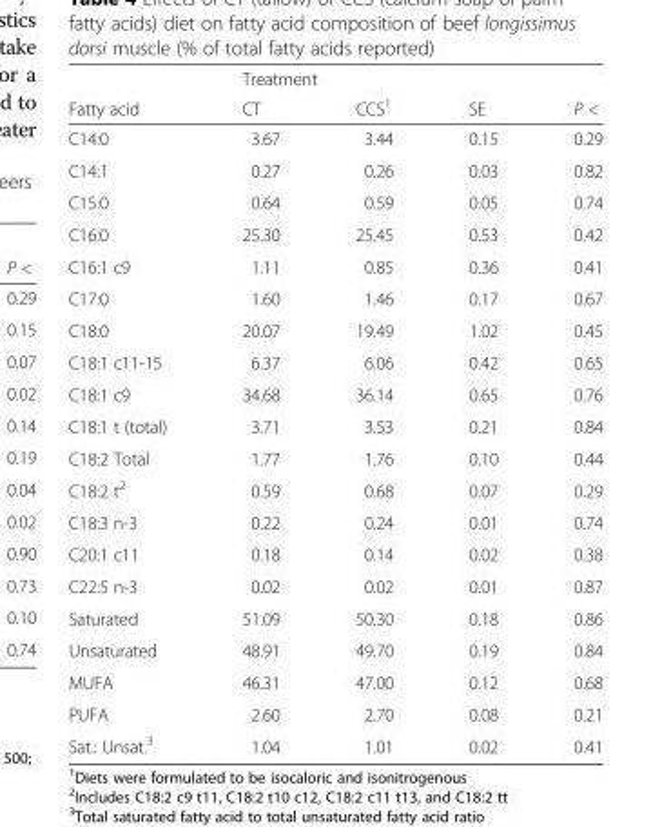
<table><thead><tr><td rowspan="2">Fatty acid</td><td colspan="2">Treatment</td><td rowspan="2">SE</td><td rowspan="2">P &lt;</td></tr><tr><td>CT</td><td>CCS<sup>1</sup></td></tr></thead><tbody><tr><td>C14:0</td><td>3.67</td><td>3.44</td><td>0.15</td><td>0.29</td></tr><tr><td>C14:1</td><td>0.27</td><td>0.26</td><td>0.03</td><td>0.82</td></tr><tr><td>C15:0</td><td>0.64</td><td>0.59</td><td>0.05</td><td>0.74</td></tr><tr><td>C16:0</td><td>25.30</td><td>25.45</td><td>0.53</td><td>0.42</td></tr><tr><td>C16:1 c9</td><td>1.11</td><td>0.85</td><td>0.36</td><td>0.41</td></tr><tr><td>C17:0</td><td>1.60</td><td>1.46</td><td>0.17</td><td>0.67</td></tr><tr><td>C18:0</td><td>20.07</td><td>19.49</td><td>1.02</td><td>0.45</td></tr><tr><td>C18:1 c11-15</td><td>6.37</td><td>6.06</td><td>0.42</td><td>0.65</td></tr><tr><td>C18:1 c9</td><td>34.68</td><td>36.14</td><td>0.65</td><td>0.76</td></tr><tr><td>C18:1 t (total)</td><td>3.71</td><td>3.53</td><td>0.21</td><td>0.84</td></tr><tr><td>C18:2 Total</td><td>1.77</td><td>1.76</td><td>0.10</td><td>0.44</td></tr><tr><td>C18:2 t<sup>2</sup></td><td>0.59</td><td>0.68</td><td>0.07</td><td>0.29</td></tr><tr><td>C18:3 n-3</td><td>0.22</td><td>0.24</td><td>0.01</td><td>0.74</td></tr><tr><td>C20:1 c11</td><td>0.18</td><td>0.14</td><td>0.02</td><td>0.38</td></tr><tr><td>C22:5 n-3</td><td>0.02</td><td>0.02</td><td>0.01</td><td>0.87</td></tr><tr><td>Saturated</td><td>51.09</td><td>50.30</td><td>0.18</td><td>0.86</td></tr><tr><td>Unsaturated</td><td>48.91</td><td>49.70</td><td>0.19</td><td>0.84</td></tr><tr><td>MUFA</td><td>46.31</td><td>47.00</td><td>0.12</td><td>0.68</td></tr><tr><td>PUFA</td><td>2.60</td><td>2.70</td><td>0.08</td><td>0.21</td></tr><tr><td>Sat.: Unsat.<sup>3</sup></td><td>1.04</td><td>1.01</td><td>0.02</td><td>0.41</td></tr></tbody></table>